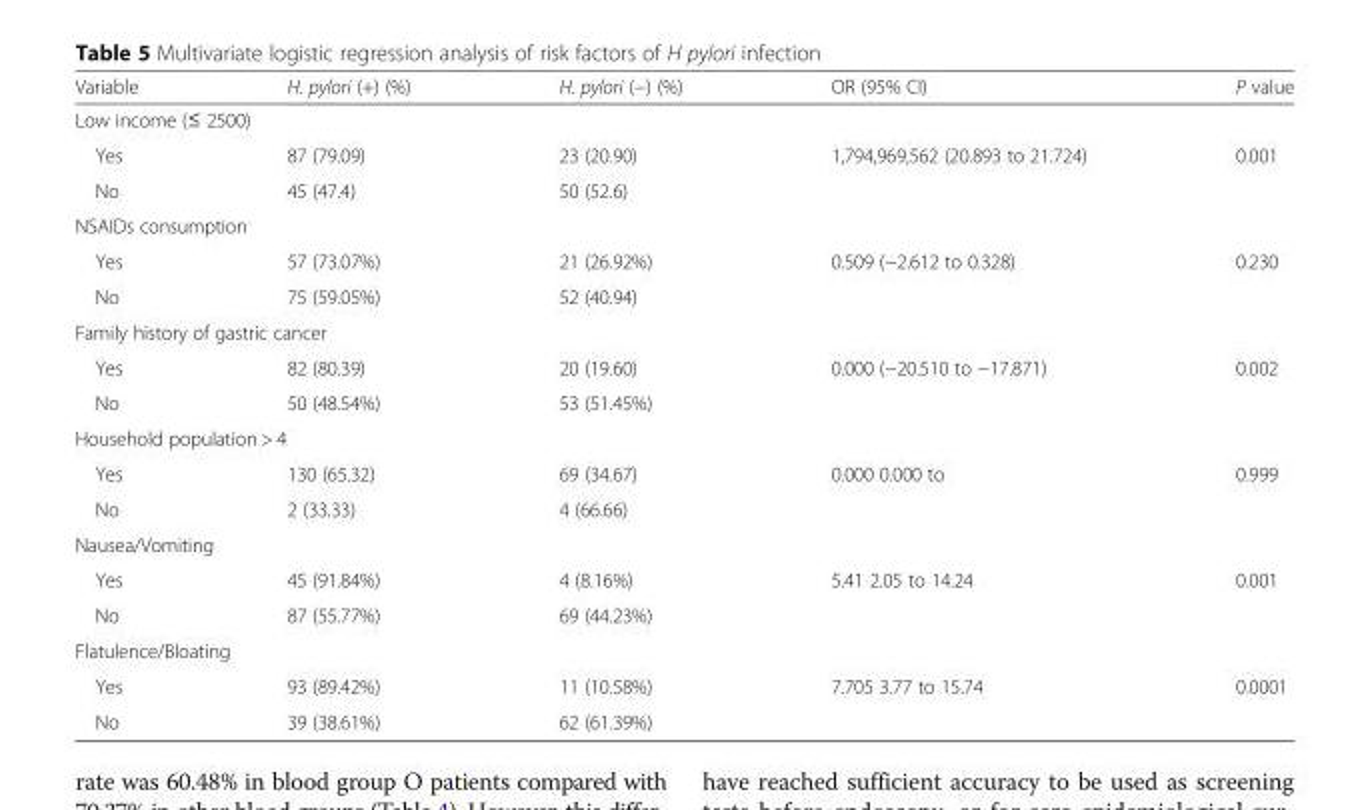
<table><thead><tr><td>Variable</td><td>H. pylori (+) (%)</td><td>H. pylori (−) (%)</td><td>OR (95% CI)</td><td>P value</td></tr></thead><tbody><tr><td colspan="5">Low income (≤ 2500)</td></tr><tr><td>Yes</td><td>87 (79.09)</td><td>23 (20.90)</td><td rowspan="2">1,794,969,562 (20.893 to 21.724)</td><td rowspan="2">0.001</td></tr><tr><td>No</td><td>45 (47.4)</td><td>50 (52.6)</td></tr><tr><td colspan="5">NSAIDs consumption</td></tr><tr><td>Yes</td><td>57 (73.07%)</td><td>21 (26.92%)</td><td rowspan="2">0.509 (−2.612 to 0.328)</td><td rowspan="2">0.230</td></tr><tr><td>No</td><td>75 (59.05%)</td><td>52 (40.94)</td></tr><tr><td colspan="5">Family history of gastric cancer</td></tr><tr><td>Yes</td><td>82 (80.39)</td><td>20 (19.60)</td><td rowspan="2">0.000 (−20.510 to −17.871)</td><td rowspan="2">0.002</td></tr><tr><td>No</td><td>50 (48.54%)</td><td>53 (51.45%)</td></tr><tr><td colspan="5">Household population &gt; 4</td></tr><tr><td>Yes</td><td>130 (65.32)</td><td>69 (34.67)</td><td rowspan="2">0.000 0.000 to</td><td rowspan="2">0.999</td></tr><tr><td>No</td><td>2 (33.33)</td><td>4 (66.66)</td></tr><tr><td colspan="5">Nausea/Vomiting</td></tr><tr><td>Yes</td><td>45 (91.84%)</td><td>4 (8.16%)</td><td rowspan="2">5.41 2.05 to 14.24</td><td rowspan="2">0.001</td></tr><tr><td>No</td><td>87 (55.77%)</td><td>69 (44.23%)</td></tr><tr><td colspan="5">Flatulence/Bloating</td></tr><tr><td>Yes</td><td>93 (89.42%)</td><td>11 (10.58%)</td><td rowspan="2">7.705 3.77 to 15.74</td><td rowspan="2">0.0001</td></tr><tr><td>No</td><td>39 (38.61%)</td><td>62 (61.39%)</td></tr></tbody></table>